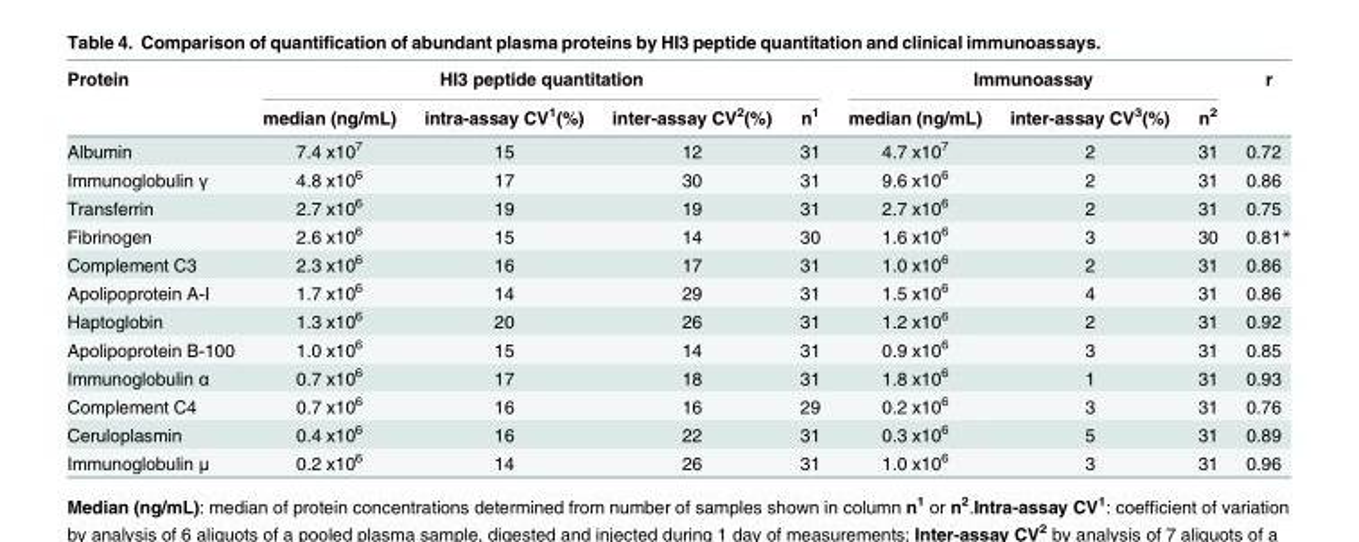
<table><thead><tr><td rowspan="2">Protein</td><td colspan="4">HI3 peptide quantitation</td><td colspan="3">Immunoassay</td><td rowspan="2">r</td></tr><tr><td>median (ng/mL)</td><td>intra-assay CV<sup>1</sup>(%)</td><td>inter-assay CV<sup>2</sup>(%)</td><td>n<sup>1</sup></td><td>median (ng/mL)</td><td>inter-assay CV<sup>3</sup>(%)</td><td>n<sup>2</sup></td></tr></thead><tbody><tr><td>Albumin</td><td>7.4 x10<sup>7</sup></td><td>15</td><td>12</td><td>31</td><td>4.7 x10<sup>7</sup></td><td>2</td><td>31</td><td>0.72</td></tr><tr><td>Immunoglobulin γ</td><td>4.8 x10<sup>6</sup></td><td>17</td><td>30</td><td>31</td><td>9.6 x10<sup>6</sup></td><td>2</td><td>31</td><td>0.86</td></tr><tr><td>Transferrin</td><td>2.7 x10<sup>6</sup></td><td>19</td><td>19</td><td>31</td><td>2.7 x10<sup>6</sup></td><td>2</td><td>31</td><td>0.75</td></tr><tr><td>Fibrinogen</td><td>2.6 x10<sup>6</sup></td><td>15</td><td>14</td><td>30</td><td>1.6 x10<sup>6</sup></td><td>3</td><td>30</td><td>0.81*</td></tr><tr><td>Complement C3</td><td>2.3 x10<sup>6</sup></td><td>16</td><td>17</td><td>31</td><td>1.0 x10<sup>6</sup></td><td>2</td><td>31</td><td>0.86</td></tr><tr><td>Apolipoprotein A-I</td><td>1.7 x10<sup>6</sup></td><td>14</td><td>29</td><td>31</td><td>1.5 x10<sup>6</sup></td><td>4</td><td>31</td><td>0.86</td></tr><tr><td>Haptoglobin</td><td>1.3 x10<sup>6</sup></td><td>20</td><td>26</td><td>31</td><td>1.2 x10<sup>6</sup></td><td>2</td><td>31</td><td>0.92</td></tr><tr><td>Apolipoprotein B-100</td><td>1.0 x10<sup>6</sup></td><td>15</td><td>14</td><td>31</td><td>0.9 x10<sup>6</sup></td><td>3</td><td>31</td><td>0.85</td></tr><tr><td>Immunoglobulin α</td><td>0.7 x10<sup>6</sup></td><td>17</td><td>18</td><td>31</td><td>1.8 x10<sup>6</sup></td><td>1</td><td>31</td><td>0.93</td></tr><tr><td>Complement C4</td><td>0.7 x10<sup>6</sup></td><td>16</td><td>16</td><td>29</td><td>0.2 x10<sup>6</sup></td><td>3</td><td>31</td><td>0.76</td></tr><tr><td>Ceruloplasmin</td><td>0.4 x10<sup>6</sup></td><td>16</td><td>22</td><td>31</td><td>0.3 x10<sup>6</sup></td><td>5</td><td>31</td><td>0.89</td></tr><tr><td>Immunoglobulin μ</td><td>0.2 x10<sup>6</sup></td><td>14</td><td>26</td><td>31</td><td>1.0 x10<sup>6</sup></td><td>3</td><td>31</td><td>0.96</td></tr></tbody></table>